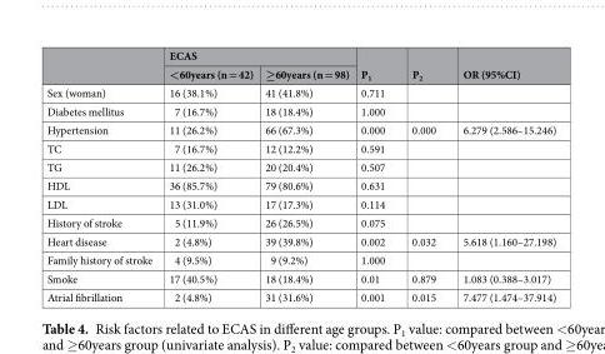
<table><thead><tr><td rowspan="2"></td><td colspan="2">ECAS</td><td rowspan="2">P<sub>1</sub></td><td rowspan="2">P<sub>2</sub></td><td rowspan="2">OR (95%CI)</td></tr><tr><td>&lt;60years (n = 42)</td><td>≥60years (n = 98)</td></tr></thead><tbody><tr><td>Sex (woman)</td><td>16 (38.1%)</td><td>41 (41.8%)</td><td>0.711</td><td></td><td></td></tr><tr><td>Diabetes mellitus</td><td>7 (16.7%)</td><td>18 (18.4%)</td><td>1.000</td><td></td><td></td></tr><tr><td>Hypertension</td><td>11 (26.2%)</td><td>66 (67.3%)</td><td>0.000</td><td>0.000</td><td>6.279 (2.586–15.246)</td></tr><tr><td>TC</td><td>7 (16.7%)</td><td>12 (12.2%)</td><td>0.591</td><td></td><td></td></tr><tr><td>TG</td><td>11 (26.2%)</td><td>20 (20.4%)</td><td>0.507</td><td></td><td></td></tr><tr><td>HDL</td><td>36 (85.7%)</td><td>79 (80.6%)</td><td>0.631</td><td></td><td></td></tr><tr><td>LDL</td><td>13 (31.0%)</td><td>17 (17.3%)</td><td>0.114</td><td></td><td></td></tr><tr><td>History of stroke</td><td>5 (11.9%)</td><td>26 (26.5%)</td><td>0.075</td><td></td><td></td></tr><tr><td>Heart disease</td><td>2 (4.8%)</td><td>39 (39.8%)</td><td>0.002</td><td>0.032</td><td>5.618 (1.160–27.198)</td></tr><tr><td>Family history of stroke</td><td>4 (9.5%)</td><td>9 (9.2%)</td><td>1.000</td><td></td><td></td></tr><tr><td>Smoke</td><td>17 (40.5%)</td><td>18 (18.4%)</td><td>0.01</td><td>0.879</td><td>1.083 (0.388–3.017)</td></tr><tr><td>Atrial fibrillation</td><td>2 (4.8%)</td><td>31 (31.6%)</td><td>0.001</td><td>0.015</td><td>7.477 (1.474–37.914)</td></tr></tbody></table>